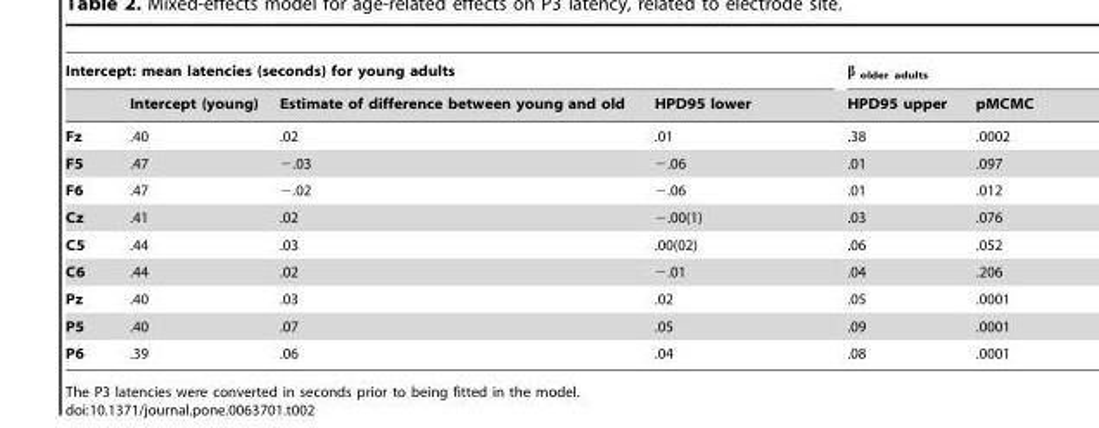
<table><thead><tr><td colspan="4">Intercept: mean latencies (seconds) for young adults</td><td colspan="2">β <sub>older adults</sub></td></tr><tr><td></td><td>Intercept (young)</td><td>Estimate of difference between young and old</td><td>HPD95 lower</td><td>HPD95 upper</td><td>pMCMC</td></tr></thead><tbody><tr><td>Fz</td><td>.40</td><td>.02</td><td>.01</td><td>.38</td><td>.0002</td></tr><tr><td>F5</td><td>.47</td><td>−.03</td><td>−.06</td><td>.01</td><td>.097</td></tr><tr><td>F6</td><td>.47</td><td>−.02</td><td>−.06</td><td>.01</td><td>.012</td></tr><tr><td>Cz</td><td>.41</td><td>.02</td><td>−.00(1)</td><td>.03</td><td>.076</td></tr><tr><td>C5</td><td>.44</td><td>.03</td><td>.00(02)</td><td>.06</td><td>.052</td></tr><tr><td>C6</td><td>.44</td><td>.02</td><td>−.01</td><td>.04</td><td>.206</td></tr><tr><td>Pz</td><td>.40</td><td>.03</td><td>.02</td><td>.05</td><td>.0001</td></tr><tr><td>P5</td><td>.40</td><td>.07</td><td>.05</td><td>.09</td><td>.0001</td></tr><tr><td>P6</td><td>.39</td><td>.06</td><td>.04</td><td>.08</td><td>.0001</td></tr></tbody></table>